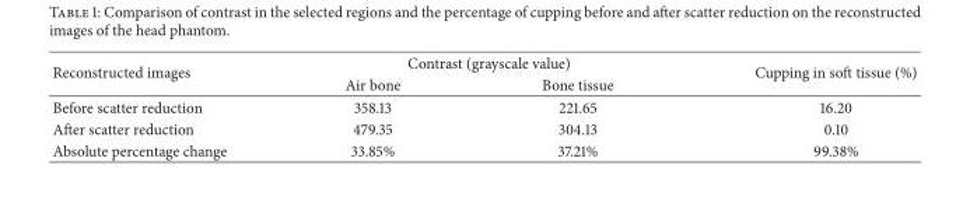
<table><thead><tr><td rowspan="2">Reconstructed images</td><td colspan="2">Contrast (grayscale value)</td><td rowspan="2">Cupping in soft tissue (%)</td></tr><tr><td>Air bone</td><td>Bone tissue</td></tr></thead><tbody><tr><td>Before scatter reduction</td><td>358.13</td><td>221.65</td><td>16.20</td></tr><tr><td>After scatter reduction</td><td>479.35</td><td>304.13</td><td>0.10</td></tr><tr><td>Absolute percentage change</td><td>33.85%</td><td>37.21%</td><td>99.38%</td></tr></tbody></table>